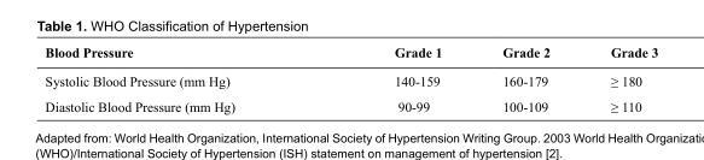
<table><thead><tr><td>Blood Pressure</td><td>Grade 1</td><td>Grade 2</td><td>Grade 3</td></tr></thead><tbody><tr><td>Systolic Blood Pressure (mm Hg)</td><td>140-159</td><td>160-179</td><td>≥ 180</td></tr><tr><td>Diastolic Blood Pressure (mm Hg)</td><td>90-99</td><td>100-109</td><td>≥ 110</td></tr></tbody></table>